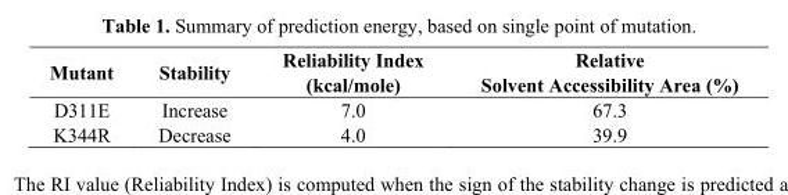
<table><thead><tr><td>Mutant</td><td>Stability</td><td>Reliability Index (kcal/mole)</td><td>Relative Solvent Accessibility Area (%)</td></tr></thead><tbody><tr><td>D311E</td><td>Increase</td><td>7.0</td><td>67.3</td></tr><tr><td>K344R</td><td>Decrease</td><td>4.0</td><td>39.9</td></tr></tbody></table>